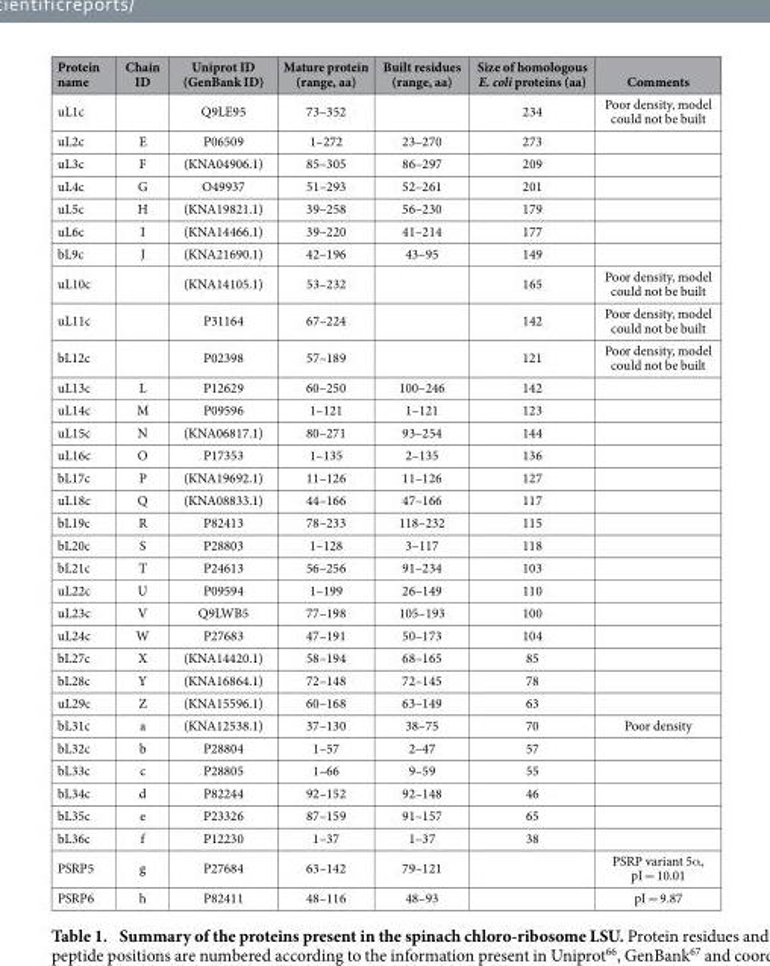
<table><thead><tr><td>Protein name</td><td>Chain ID</td><td>Uniprot ID (GenBank ID)</td><td>Mature protein (range, aa)</td><td>Built residues (range, aa)</td><td>Size of homologous E. coli proteins (aa)</td><td>Comments</td></tr></thead><tbody><tr><td>uL1c</td><td></td><td>Q9LE95</td><td>73–352</td><td></td><td>234</td><td>Poor density, model could not be built</td></tr><tr><td>uL2c</td><td>E</td><td>P06509</td><td>1–272</td><td>23–270</td><td>273</td><td></td></tr><tr><td>uL3c</td><td>F</td><td>(KNA04906.1)</td><td>85–305</td><td>86–297</td><td>209</td><td></td></tr><tr><td>uL4c</td><td>G</td><td>O49937</td><td>51–293</td><td>52–261</td><td>201</td><td></td></tr><tr><td>uL5c</td><td>H</td><td>(KNA19821.1)</td><td>39–258</td><td>56–230</td><td>179</td><td></td></tr><tr><td>uL6c</td><td>I</td><td>(KNA14466.1)</td><td>39–220</td><td>41–214</td><td>177</td><td></td></tr><tr><td>bL9c</td><td>J</td><td>(KNA21690.1)</td><td>42–196</td><td>43–95</td><td>149</td><td></td></tr><tr><td>uL10c</td><td></td><td>(KNA14105.1)</td><td>53–232</td><td></td><td>165</td><td>Poor density, model could not be built</td></tr><tr><td>uL11c</td><td></td><td>P31164</td><td>67–224</td><td></td><td>142</td><td>Poor density, model could not be built</td></tr><tr><td>bL12c</td><td></td><td>P02398</td><td>57–189</td><td></td><td>121</td><td>Poor density, model could not be built</td></tr><tr><td>uL13c</td><td>L</td><td>P12629</td><td>60–250</td><td>100–246</td><td>142</td><td></td></tr><tr><td>uL14c</td><td>M</td><td>P09596</td><td>1–121</td><td>1–121</td><td>123</td><td></td></tr><tr><td>uL15c</td><td>N</td><td>(KNA06817.1)</td><td>80–271</td><td>93–254</td><td>144</td><td></td></tr><tr><td>uL16c</td><td>O</td><td>P17353</td><td>1–135</td><td>2–135</td><td>136</td><td></td></tr><tr><td>bL17c</td><td>P</td><td>(KNA19692.1)</td><td>11–126</td><td>11–126</td><td>127</td><td></td></tr><tr><td>uL18c</td><td>Q</td><td>(KNA08833.1)</td><td>44–166</td><td>47–166</td><td>117</td><td></td></tr><tr><td>bL19c</td><td>R</td><td>P82413</td><td>78–233</td><td>118–232</td><td>115</td><td></td></tr><tr><td>bL20c</td><td>S</td><td>P28803</td><td>1–128</td><td>3–117</td><td>118</td><td></td></tr><tr><td>bL21c</td><td>T</td><td>P24613</td><td>56–256</td><td>91–234</td><td>103</td><td></td></tr><tr><td>uL22c</td><td>U</td><td>P09594</td><td>1–199</td><td>26–149</td><td>110</td><td></td></tr><tr><td>uL23c</td><td>V</td><td>Q9LWB5</td><td>77–198</td><td>105–193</td><td>100</td><td></td></tr><tr><td>uL24c</td><td>W</td><td>P27683</td><td>47–191</td><td>50–173</td><td>104</td><td></td></tr><tr><td>bL27c</td><td>X</td><td>(KNA14420.1)</td><td>58–194</td><td>68–165</td><td>85</td><td></td></tr><tr><td>bL28c</td><td>Y</td><td>(KNA16864.1)</td><td>72–148</td><td>72–145</td><td>78</td><td></td></tr><tr><td>uL29c</td><td>Z</td><td>(KNA15596.1)</td><td>60–168</td><td>63–149</td><td>63</td><td></td></tr><tr><td>bL31c</td><td>a</td><td>(KNA12538.1)</td><td>37–130</td><td>38–75</td><td>70</td><td>Poor density</td></tr><tr><td>bL32c</td><td>b</td><td>P28804</td><td>1–57</td><td>2–47</td><td>57</td><td></td></tr><tr><td>bL33c</td><td>c</td><td>P28805</td><td>1–66</td><td>9–59</td><td>55</td><td></td></tr><tr><td>bL34c</td><td>d</td><td>P82244</td><td>92–152</td><td>92–148</td><td>46</td><td></td></tr><tr><td>bL35c</td><td>e</td><td>P23326</td><td>87–159</td><td>91–157</td><td>65</td><td></td></tr><tr><td>bL36c</td><td>f</td><td>P12230</td><td>1–37</td><td>1–37</td><td>38</td><td></td></tr><tr><td>PSRP5</td><td>g</td><td>P27684</td><td>63–142</td><td>79–121</td><td></td><td>PSRP variant 5α , pI = 10.01</td></tr><tr><td>PSRP6</td><td>h</td><td>P82411</td><td>48–116</td><td>48–93</td><td></td><td>pI = 9.87</td></tr></tbody></table>